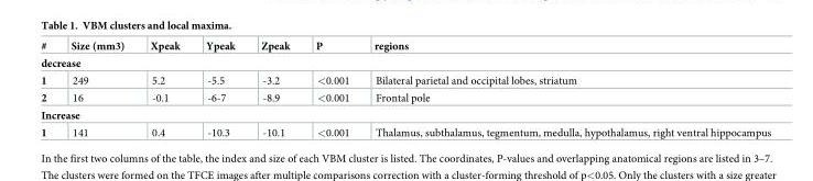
<table><thead><tr><td>#</td><td>Size (mm3)</td><td>Xpeak</td><td>Ypeak</td><td>Zpeak</td><td>P</td><td>regions</td></tr></thead><tbody><tr><td colspan="7">decrease</td></tr><tr><td>1</td><td>249</td><td>5.2</td><td>-5.5</td><td>-3.2</td><td>&lt;0.001</td><td>Bilateral parietal and occipital lobes, striatum</td></tr><tr><td>2</td><td>16</td><td>-0.1</td><td>-6-7</td><td>-8.9</td><td>&lt;0.001</td><td>Frontal pole</td></tr><tr><td colspan="7">Increase</td></tr><tr><td>1</td><td>141</td><td>0.4</td><td>-10.3</td><td>-10.1</td><td>&lt;0.001</td><td>Thalamus, subthalamus, tegmentum, medulla, hypothalamus, right ventral hippocampus</td></tr></tbody></table>